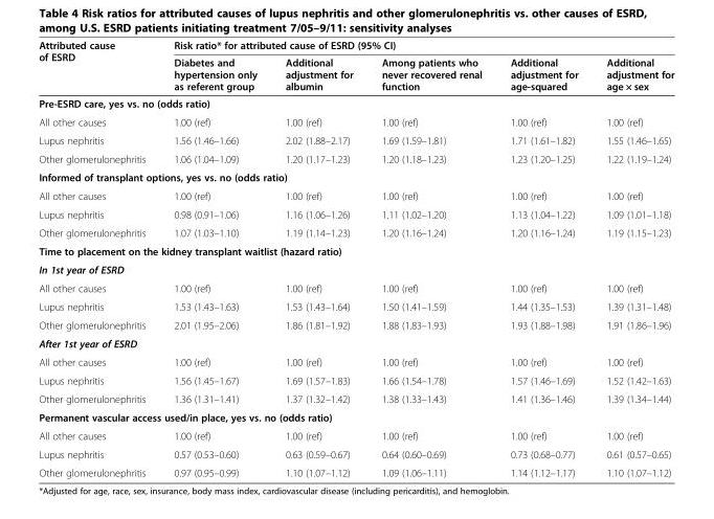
<table><thead><tr><td rowspan="2">Attributed cause of ESRD</td><td colspan="5">Risk ratio* for attributed cause of ESRD (95% CI)</td></tr><tr><td>Diabetes and hypertension only as referent group</td><td>Additional adjustment for albumin</td><td>Among patients who never recovered renal function</td><td>Additional adjustment for age-squared</td><td>Additional adjustment for age × sex</td></tr></thead><tbody><tr><td colspan="6">Pre-ESRD care, yes vs. no (odds ratio)</td></tr><tr><td>All other causes</td><td>1.00 (ref)</td><td>1.00 (ref)</td><td>1.00 (ref)</td><td>1.00 (ref)</td><td>1.00 (ref)</td></tr><tr><td>Lupus nephritis</td><td>1.56 (1.46–1.66)</td><td>2.02 (1.88–2.17)</td><td>1.69 (1.59–1.81)</td><td>1.71 (1.61–1.82)</td><td>1.55 (1.46–1.65)</td></tr><tr><td>Other glomerulonephritis</td><td>1.06 (1.04–1.09)</td><td>1.20 (1.17–1.23)</td><td>1.20 (1.18–1.23)</td><td>1.23 (1.20–1.25)</td><td>1.22 (1.19–1.24)</td></tr><tr><td colspan="6">Informed of transplant options, yes vs. no (odds ratio)</td></tr><tr><td>All other causes</td><td>1.00 (ref)</td><td>1.00 (ref)</td><td>1.00 (ref)</td><td>1.00 (ref)</td><td>1.00 (ref)</td></tr><tr><td>Lupus nephritis</td><td>0.98 (0.91–1.06)</td><td>1.16 (1.06–1.26)</td><td>1.11 (1.02–1.20)</td><td>1.13 (1.04–1.22)</td><td>1.09 (1.01–1.18)</td></tr><tr><td>Other glomerulonephritis</td><td>1.07 (1.03–1.10)</td><td>1.19 (1.14–1.23)</td><td>1.20 (1.16–1.24)</td><td>1.20 (1.16–1.24)</td><td>1.19 (1.15–1.23)</td></tr><tr><td colspan="6">Time to placement on the kidney transplant waitlist (hazard ratio)</td></tr><tr><td colspan="6">In 1st year of ESRD</td></tr><tr><td>All other causes</td><td>1.00 (ref)</td><td>1.00 (ref)</td><td>1.00 (ref)</td><td>1.00 (ref)</td><td>1.00 (ref)</td></tr><tr><td>Lupus nephritis</td><td>1.53 (1.43–1.63)</td><td>1.53 (1.43–1.64)</td><td>1.50 (1.41–1.59)</td><td>1.44 (1.35–1.53)</td><td>1.39 (1.31–1.48)</td></tr><tr><td>Other glomerulonephritis</td><td>2.01 (1.95–2.06)</td><td>1.86 (1.81–1.92)</td><td>1.88 (1.83–1.93)</td><td>1.93 (1.88–1.98)</td><td>1.91 (1.86–1.96)</td></tr><tr><td colspan="6">After 1st year of ESRD</td></tr><tr><td>All other causes</td><td>1.00 (ref)</td><td>1.00 (ref)</td><td>1.00 (ref)</td><td>1.00 (ref)</td><td>1.00 (ref)</td></tr><tr><td>Lupus nephritis</td><td>1.56 (1.45–1.67)</td><td>1.69 (1.57–1.83)</td><td>1.66 (1.54–1.78)</td><td>1.57 (1.46–1.69)</td><td>1.52 (1.42–1.63)</td></tr><tr><td>Other glomerulonephritis</td><td>1.36 (1.31–1.41)</td><td>1.37 (1.32–1.42)</td><td>1.38 (1.33–1.43)</td><td>1.41 (1.36–1.46)</td><td>1.39 (1.34–1.44)</td></tr><tr><td colspan="6">Permanent vascular access used/in place, yes vs. no (odds ratio)</td></tr><tr><td>All other causes</td><td>1.00 (ref)</td><td>1.00 (ref)</td><td>1.00 (ref)</td><td>1.00 (ref)</td><td>1.00 (ref)</td></tr><tr><td>Lupus nephritis</td><td>0.57 (0.53–0.60)</td><td>0.63 (0.59–0.67)</td><td>0.64 (0.60–0.69)</td><td>0.73 (0.68–0.77)</td><td>0.61 (0.57–0.65)</td></tr><tr><td>Other glomerulonephritis</td><td>0.97 (0.95–0.99)</td><td>1.10 (1.07–1.12)</td><td>1.09 (1.06–1.11)</td><td>1.14 (1.12–1.17)</td><td>1.10 (1.07–1.12)</td></tr></tbody></table>